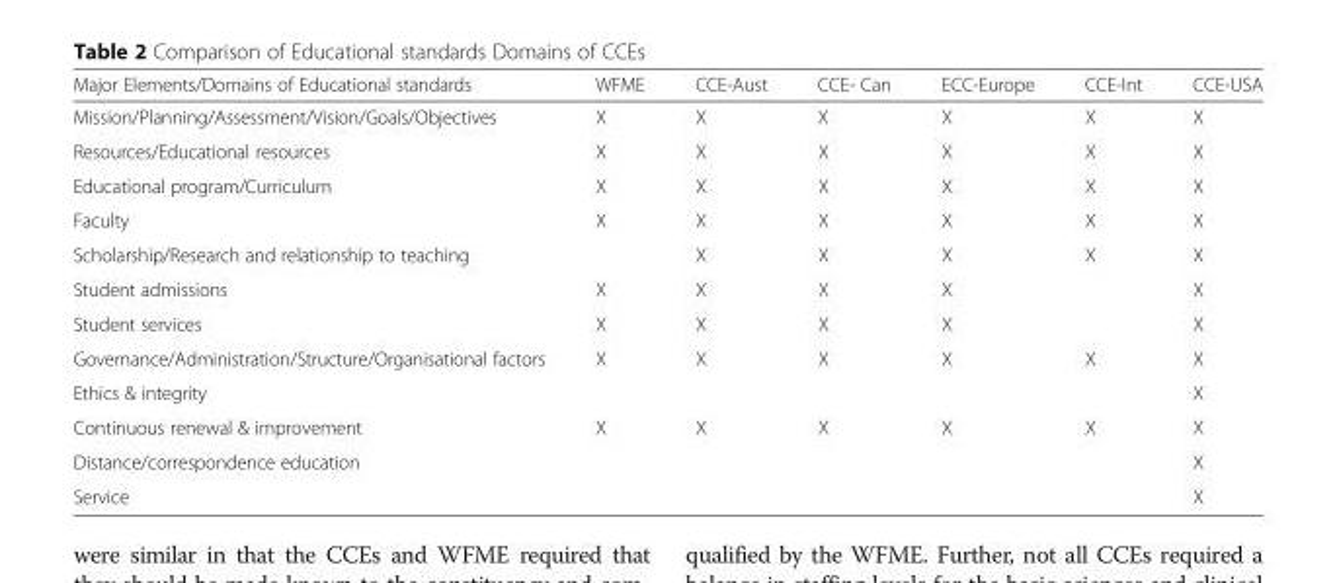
<table><thead><tr><td>Major Elements/Domains of Educational standards</td><td>WFME</td><td>CCE-Aust</td><td>CCE- Can</td><td>ECC-Europe</td><td>CCE-Int</td><td>CCE-USA</td></tr></thead><tbody><tr><td>Mission/Planning/Assessment/Vision/Goals/Objectives</td><td>X</td><td>X</td><td>X</td><td>X</td><td>X</td><td>X</td></tr><tr><td>Resources/Educational resources</td><td>X</td><td>X</td><td>X</td><td>X</td><td>X</td><td>X</td></tr><tr><td>Educational program/Curriculum</td><td>X</td><td>X</td><td>X</td><td>X</td><td>X</td><td>X</td></tr><tr><td>Faculty</td><td>X</td><td>X</td><td>X</td><td>X</td><td>X</td><td>X</td></tr><tr><td>Scholarship/Research and relationship to teaching</td><td></td><td>X</td><td>X</td><td>X</td><td>X</td><td>X</td></tr><tr><td>Student admissions</td><td>X</td><td>X</td><td>X</td><td>X</td><td></td><td>X</td></tr><tr><td>Student services</td><td>X</td><td>X</td><td>X</td><td>X</td><td></td><td>X</td></tr><tr><td>Governance/Administration/Structure/Organisational factors</td><td>X</td><td>X</td><td>X</td><td>X</td><td>X</td><td>X</td></tr><tr><td>Ethics &amp; integrity</td><td></td><td></td><td></td><td></td><td></td><td>X</td></tr><tr><td>Continuous renewal &amp; improvement</td><td>X</td><td>X</td><td>X</td><td>X</td><td>X</td><td>X</td></tr><tr><td>Distance/correspondence education</td><td></td><td></td><td></td><td></td><td></td><td>X</td></tr><tr><td>Service</td><td></td><td></td><td></td><td></td><td></td><td>X</td></tr></tbody></table>